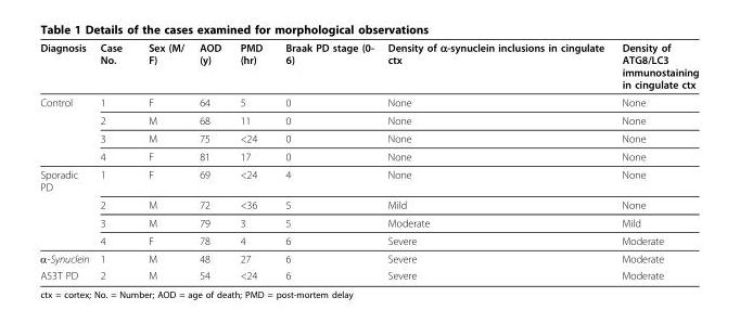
<table><thead><tr><td>Diagnosis</td><td>Case No.</td><td>Sex (M/ F)</td><td>AOD (y)</td><td>PMD (hr)</td><td>Braak PD stage (0- 6)</td><td>Density of α-synuclein inclusions in cingulate ctx</td><td>Density of ATG8/LC3 immunostaining in cingulate ctx</td></tr></thead><tbody><tr><td rowspan="4">Control</td><td>1</td><td>F</td><td>64</td><td>5</td><td>0</td><td>None</td><td>None</td></tr><tr><td>2</td><td>M</td><td>68</td><td>11</td><td>0</td><td>None</td><td>None</td></tr><tr><td>3</td><td>M</td><td>75</td><td>&lt;24</td><td>0</td><td>None</td><td>None</td></tr><tr><td>4</td><td>F</td><td>81</td><td>17</td><td>0</td><td>None</td><td>None</td></tr><tr><td rowspan="4">Sporadic PD</td><td>1</td><td>F</td><td>69</td><td>&lt;24</td><td>4</td><td>None</td><td>None</td></tr><tr><td>2</td><td>M</td><td>72</td><td>&lt;36</td><td>5</td><td>Mild</td><td>None</td></tr><tr><td>3</td><td>M</td><td>79</td><td>3</td><td>5</td><td>Moderate</td><td>Mild</td></tr><tr><td>4</td><td>F</td><td>78</td><td>4</td><td>6</td><td>Severe</td><td>Moderate</td></tr><tr><td>α-Synuclein</td><td>1</td><td>M</td><td>48</td><td>27</td><td>6</td><td>Severe</td><td>Moderate</td></tr><tr><td>A53T PD</td><td>2</td><td>M</td><td>54</td><td>&lt;24</td><td>6</td><td>Severe</td><td>Moderate</td></tr></tbody></table>